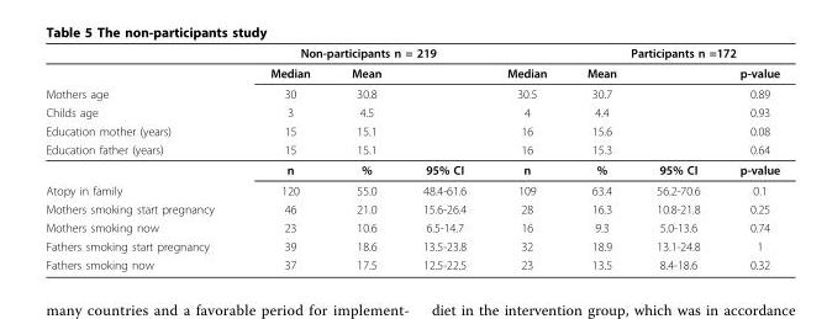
<table><thead><tr><td rowspan="2"></td><td colspan="3">Non-participants n = 219</td><td rowspan="2">Median</td><td colspan="3">Participants n =172</td></tr><tr><td>Median</td><td>Mean</td><td></td><td>Mean</td><td></td><td>p-value</td></tr></thead><tbody><tr><td>Mothers age</td><td>30</td><td>30.8</td><td></td><td>30.5</td><td>30.7</td><td></td><td>0.89</td></tr><tr><td>Childs age</td><td>3</td><td>4.5</td><td></td><td>4</td><td>4.4</td><td></td><td>0.93</td></tr><tr><td>Education mother (years)</td><td>15</td><td>15.1</td><td></td><td>16</td><td>15.6</td><td></td><td>0.08</td></tr><tr><td rowspan="2">Education father (years)</td><td>15</td><td>15.1</td><td></td><td>16</td><td>15.3</td><td></td><td>0.64</td></tr><tr><td>n</td><td>%</td><td>95% CI</td><td>n</td><td>%</td><td>95% CI</td><td>p-value</td></tr><tr><td>Atopy in family</td><td>120</td><td>55.0</td><td>48.4-61.6</td><td>109</td><td>63.4</td><td>56.2-70.6</td><td>0.1</td></tr><tr><td>Mothers smoking start pregnancy</td><td>46</td><td>21.0</td><td>15.6-26.4</td><td>28</td><td>16.3</td><td>10.8-21.8</td><td>0.25</td></tr><tr><td>Mothers smoking now</td><td>23</td><td>10.6</td><td>6.5-14.7</td><td>16</td><td>9.3</td><td>5.0-13.6</td><td>0.74</td></tr><tr><td>Fathers smoking start pregnancy</td><td>39</td><td>18.6</td><td>13.5-23.8</td><td>32</td><td>18.9</td><td>13.1-24.8</td><td>1</td></tr><tr><td>Fathers smoking now</td><td>37</td><td>17.5</td><td>12.5-22.5</td><td>23</td><td>13.5</td><td>8.4-18.6</td><td>0.32</td></tr></tbody></table>